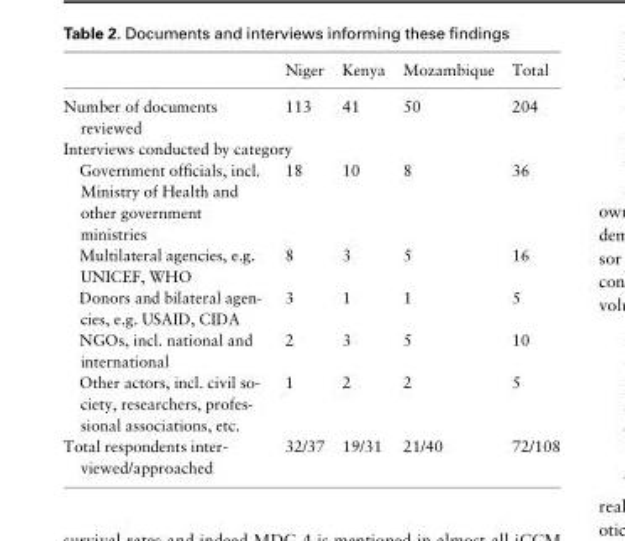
<table><thead><tr><td></td><td>Niger</td><td>Kenya</td><td>Mozambique</td><td>Total</td></tr></thead><tbody><tr><td>Number of documents reviewed</td><td>113</td><td>41</td><td>50</td><td>204</td></tr><tr><td colspan="5">Interviews conducted by category</td></tr><tr><td>Government officials, incl. Ministry of Health and other government ministries</td><td>18</td><td>10</td><td>8</td><td>36</td></tr><tr><td>Multilateral agencies, e.g. UNICEF, WHO</td><td>8</td><td>3</td><td>5</td><td>16</td></tr><tr><td>Donors and bilateral agen- cies, e.g. USAID, CIDA</td><td>3</td><td>1</td><td>1</td><td>5</td></tr><tr><td>NGOs, incl. national and international</td><td>2</td><td>3</td><td>5</td><td>10</td></tr><tr><td>Other actors, incl. civil so- ciety, researchers, profes- sional associations, etc.</td><td>1</td><td>2</td><td>2</td><td>5</td></tr><tr><td>Total respondents inter- viewed/approached</td><td>32/37</td><td>19/31</td><td>21/40</td><td>72/108</td></tr></tbody></table>